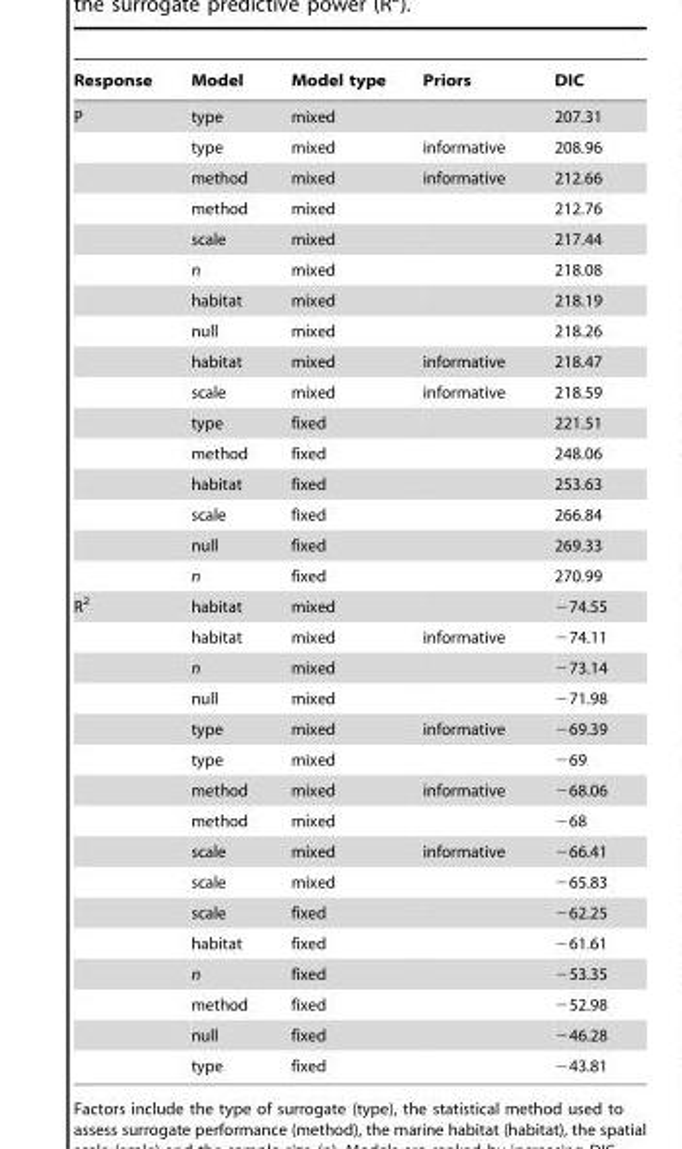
<table><thead><tr><td>Response</td><td>Model</td><td>Model type</td><td>Priors</td><td>DIC</td></tr></thead><tbody><tr><td rowspan="16">P</td><td>type</td><td>mixed</td><td></td><td>207.31</td></tr><tr><td>type</td><td>mixed</td><td>informative</td><td>208.96</td></tr><tr><td>method</td><td>mixed</td><td>informative</td><td>212.66</td></tr><tr><td>method</td><td>mixed</td><td></td><td>212.76</td></tr><tr><td>scale</td><td>mixed</td><td></td><td>217.44</td></tr><tr><td>n</td><td>mixed</td><td></td><td>218.08</td></tr><tr><td>habitat</td><td>mixed</td><td></td><td>218.19</td></tr><tr><td>null</td><td>mixed</td><td></td><td>218.26</td></tr><tr><td>habitat</td><td>mixed</td><td>informative</td><td>218.47</td></tr><tr><td>scale</td><td>mixed</td><td>informative</td><td>218.59</td></tr><tr><td>type</td><td>fixed</td><td></td><td>221.51</td></tr><tr><td>method</td><td>fixed</td><td></td><td>248.06</td></tr><tr><td>habitat</td><td>fixed</td><td></td><td>253.63</td></tr><tr><td>scale</td><td>fixed</td><td></td><td>266.84</td></tr><tr><td>null</td><td>fixed</td><td></td><td>269.33</td></tr><tr><td>n</td><td>fixed</td><td></td><td>270.99</td></tr><tr><td rowspan="16">R<sup>2</sup></td><td>habitat</td><td>mixed</td><td></td><td>−74.55</td></tr><tr><td>habitat</td><td>mixed</td><td>informative</td><td>−74.11</td></tr><tr><td>n</td><td>mixed</td><td></td><td>−73.14</td></tr><tr><td>null</td><td>mixed</td><td></td><td>−71.98</td></tr><tr><td>type</td><td>mixed</td><td>informative</td><td>−69.39</td></tr><tr><td>type</td><td>mixed</td><td></td><td>−69</td></tr><tr><td>method</td><td>mixed</td><td>informative</td><td>−68.06</td></tr><tr><td>method</td><td>mixed</td><td></td><td>−68</td></tr><tr><td>scale</td><td>mixed</td><td>informative</td><td>−66.41</td></tr><tr><td>scale</td><td>mixed</td><td></td><td>−65.83</td></tr><tr><td>scale</td><td>fixed</td><td></td><td>−62.25</td></tr><tr><td>habitat</td><td>fixed</td><td></td><td>−61.61</td></tr><tr><td>n</td><td>fixed</td><td></td><td>−53.35</td></tr><tr><td>method</td><td>fixed</td><td></td><td>−52.98</td></tr><tr><td>null</td><td>fixed</td><td></td><td>−46.28</td></tr><tr><td>type</td><td>fixed</td><td></td><td>−43.81</td></tr></tbody></table>